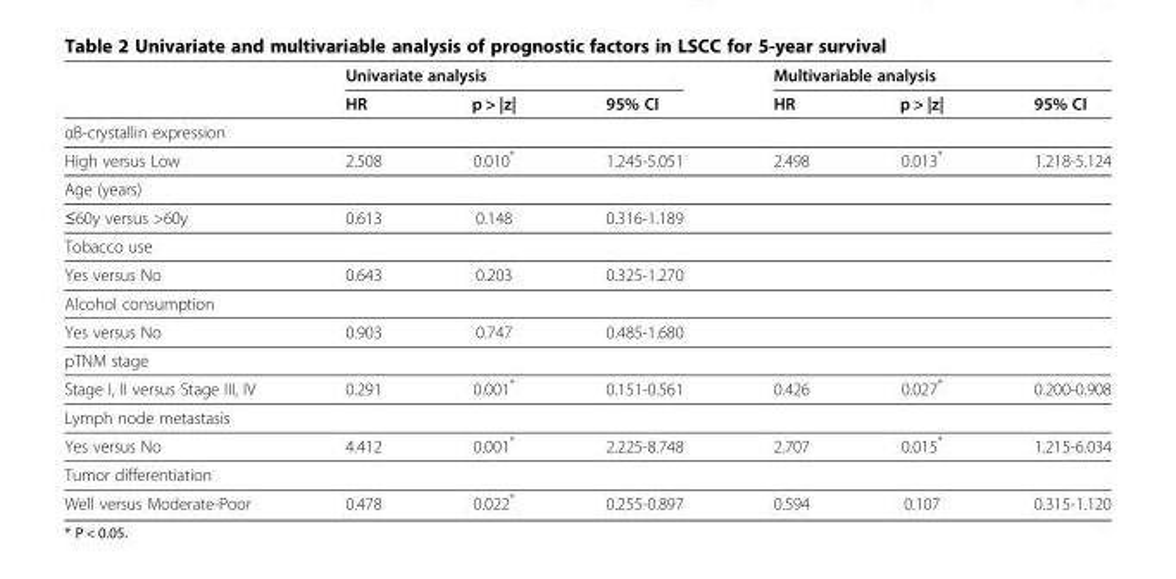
<table><thead><tr><td rowspan="2"></td><td colspan="3">Univariate analysis</td><td colspan="3">Multivariable analysis</td></tr><tr><td>HR</td><td>p &gt; |z|</td><td>95% CI</td><td>HR</td><td>p &gt; |z|</td><td>95% CI</td></tr></thead><tbody><tr><td colspan="7">αB-crystallin expression</td></tr><tr><td>High versus Low</td><td>2.508</td><td>0.010*</td><td>1.245-5.051</td><td>2.498</td><td>0.013*</td><td>1.218-5.124</td></tr><tr><td colspan="7">Age (years)</td></tr><tr><td>≤60y versus &gt;60y</td><td>0.613</td><td>0.148</td><td>0.316-1.189</td><td></td><td></td><td></td></tr><tr><td colspan="7">Tobacco use</td></tr><tr><td>Yes versus No</td><td>0.643</td><td>0.203</td><td>0.325-1.270</td><td></td><td></td><td></td></tr><tr><td colspan="7">Alcohol consumption</td></tr><tr><td>Yes versus No</td><td>0.903</td><td>0.747</td><td>0.485-1.680</td><td></td><td></td><td></td></tr><tr><td colspan="7">pTNM stage</td></tr><tr><td>Stage I, II versus Stage III, IV</td><td>0.291</td><td>0.001*</td><td>0.151-0.561</td><td>0.426</td><td>0.027*</td><td>0.200-0.908</td></tr><tr><td colspan="7">Lymph node metastasis</td></tr><tr><td>Yes versus No</td><td>4.412</td><td>0.001*</td><td>2.225-8.748</td><td>2.707</td><td>0.015*</td><td>1.215-6.034</td></tr><tr><td colspan="7">Tumor differentiation</td></tr><tr><td>Well versus Moderate-Poor</td><td>0.478</td><td>0.022*</td><td>0.255-0.897</td><td>0.594</td><td>0.107</td><td>0.315-1.120</td></tr></tbody></table>